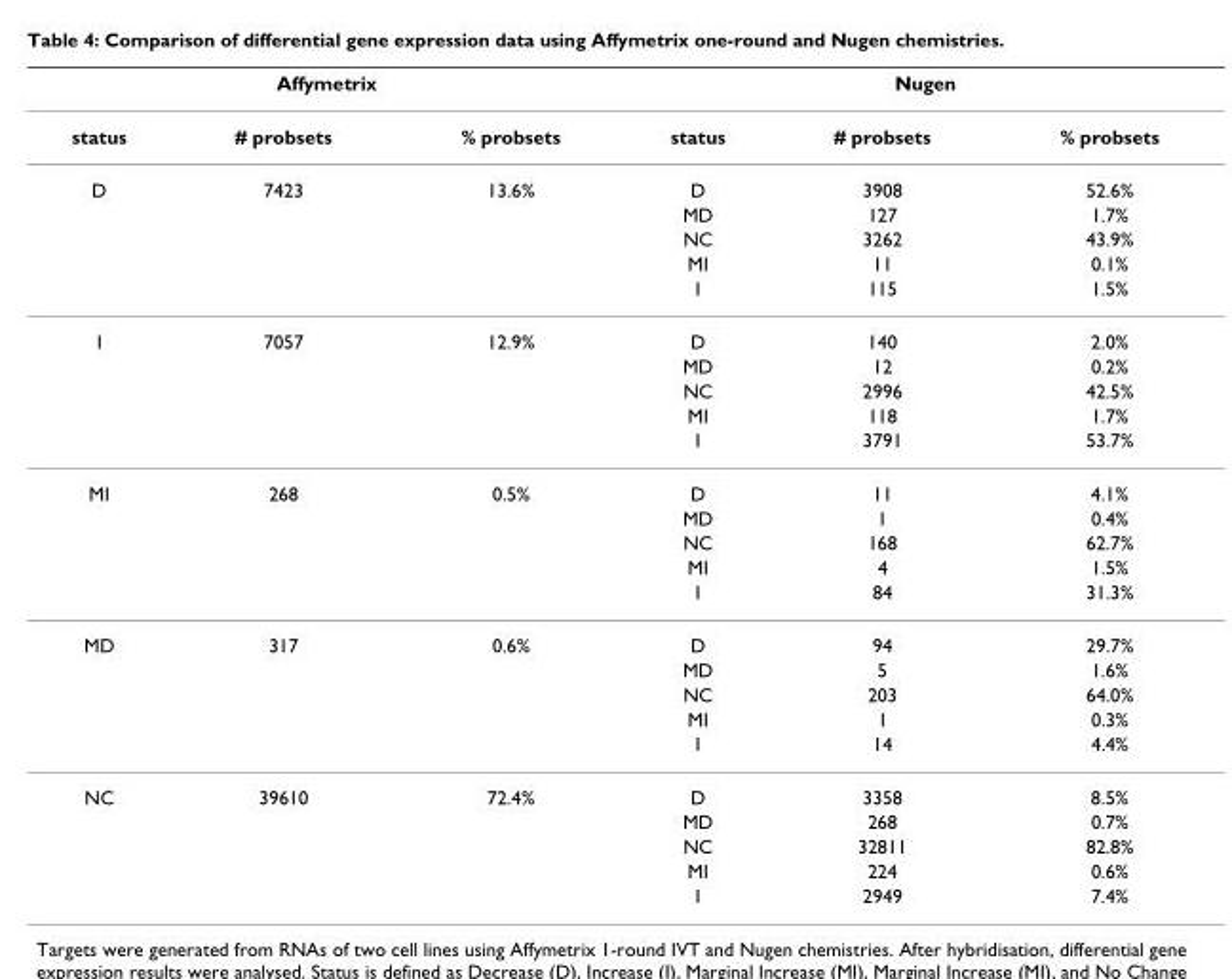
<table><thead><tr><td colspan="3">Affymetrix</td><td colspan="3">Nugen</td></tr><tr><td>status</td><td># probsets</td><td>% probsets</td><td>status</td><td># probsets</td><td>% probsets</td></tr></thead><tbody><tr><td rowspan="5">D</td><td>7423</td><td>13.6%</td><td>D</td><td>3908</td><td>52.6%</td></tr><tr><td></td><td></td><td>MD</td><td>127</td><td>1.7%</td></tr><tr><td></td><td></td><td>NC</td><td>3262</td><td>43.9%</td></tr><tr><td></td><td></td><td>MI</td><td>11</td><td>0.1%</td></tr><tr><td></td><td></td><td>I</td><td>115</td><td>1.5%</td></tr><tr><td rowspan="5">I</td><td>7057</td><td>12.9%</td><td>D</td><td>140</td><td>2.0%</td></tr><tr><td></td><td></td><td>MD</td><td>12</td><td>0.2%</td></tr><tr><td></td><td></td><td>NC</td><td>2996</td><td>42.5%</td></tr><tr><td></td><td></td><td>MI</td><td>118</td><td>1.7%</td></tr><tr><td></td><td></td><td>I</td><td>3791</td><td>53.7%</td></tr><tr><td rowspan="5">MI</td><td>268</td><td>0.5%</td><td>D</td><td>11</td><td>4.1%</td></tr><tr><td></td><td></td><td>MD</td><td>1</td><td>0.4%</td></tr><tr><td></td><td></td><td>NC</td><td>168</td><td>62.7%</td></tr><tr><td></td><td></td><td>MI</td><td>4</td><td>1.5%</td></tr><tr><td></td><td></td><td>I</td><td>84</td><td>31.3%</td></tr><tr><td rowspan="5">MD</td><td>317</td><td>0.6%</td><td>D</td><td>94</td><td>29.7%</td></tr><tr><td></td><td></td><td>MD</td><td>5</td><td>1.6%</td></tr><tr><td></td><td></td><td>NC</td><td>203</td><td>64.0%</td></tr><tr><td></td><td></td><td>MI</td><td>1</td><td>0.3%</td></tr><tr><td></td><td></td><td>I</td><td>14</td><td>4.4%</td></tr><tr><td rowspan="5">NC</td><td>39610</td><td>72.4%</td><td>D</td><td>3358</td><td>8.5%</td></tr><tr><td></td><td></td><td>MD</td><td>268</td><td>0.7%</td></tr><tr><td></td><td></td><td>NC</td><td>32811</td><td>82.8%</td></tr><tr><td></td><td></td><td>MI</td><td>224</td><td>0.6%</td></tr><tr><td></td><td></td><td>I</td><td>2949</td><td>7.4%</td></tr></tbody></table>